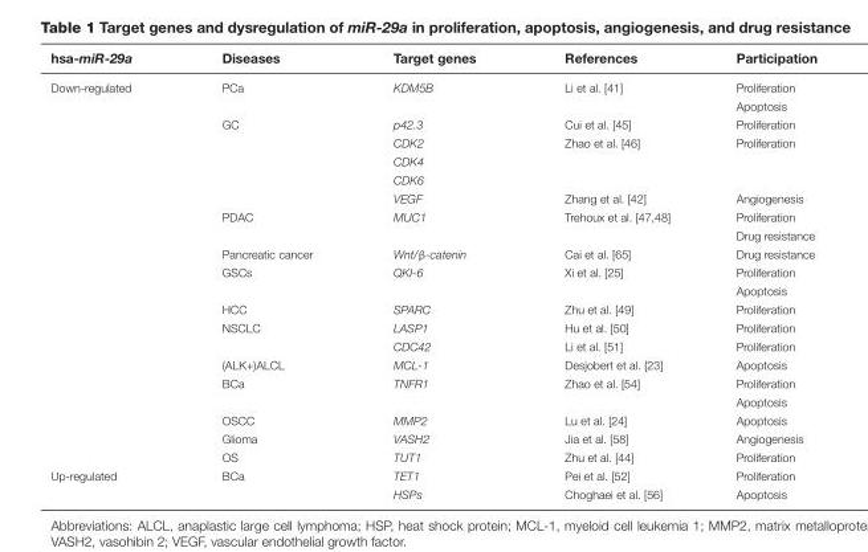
<table><thead><tr><td>hsa-miR-29a</td><td>Diseases</td><td>Target genes</td><td>References</td><td>Participation</td></tr></thead><tbody><tr><td rowspan="21">Down-regulated</td><td>PCa</td><td>KDM5B</td><td>Li et al. [41]</td><td>Proliferation</td></tr><tr><td></td><td></td><td></td><td>Apoptosis</td></tr><tr><td>GC</td><td>p42.3</td><td>Cui et al. [45]</td><td>Proliferation</td></tr><tr><td></td><td>CDK2</td><td>Zhao et al. [46]</td><td>Proliferation</td></tr><tr><td></td><td>CDK4</td><td></td><td></td></tr><tr><td></td><td>CDK6</td><td></td><td></td></tr><tr><td></td><td>VEGF</td><td>Zhang et al. [42]</td><td>Angiogenesis</td></tr><tr><td>PDAC</td><td>MUC1</td><td>Trehoux et al. [47,48]</td><td>Proliferation</td></tr><tr><td></td><td></td><td></td><td>Drug resistance</td></tr><tr><td>Pancreatic cancer</td><td>Wnt/β-catenin</td><td>Cai et al. [65]</td><td>Drug resistance</td></tr><tr><td>GSCs</td><td>QKI-6</td><td>Xi et al. [25]</td><td>Proliferation</td></tr><tr><td></td><td></td><td></td><td>Apoptosis</td></tr><tr><td>HCC</td><td>SPARC</td><td>Zhu et al. [49]</td><td>Proliferation</td></tr><tr><td>NSCLC</td><td>LASP1</td><td>Hu et al. [50]</td><td>Proliferation</td></tr><tr><td></td><td>CDC42</td><td>Li et al. [51]</td><td>Proliferation</td></tr><tr><td>(ALK+)ALCL</td><td>MCL-1</td><td>Desjobert et al. [23]</td><td>Apoptosis</td></tr><tr><td>BCa</td><td>TNFR1</td><td>Zhao et al. [54]</td><td>Proliferation</td></tr><tr><td></td><td></td><td></td><td>Apoptosis</td></tr><tr><td>OSCC</td><td>MMP2</td><td>Lu et al. [24]</td><td>Apoptosis</td></tr><tr><td>Glioma</td><td>VASH2</td><td>Jia et al. [58]</td><td>Angiogenesis</td></tr><tr><td>OS</td><td>TUT1</td><td>Zhu et al. [44]</td><td>Proliferation</td></tr><tr><td rowspan="2">Up-regulated</td><td>BCa</td><td>TET1</td><td>Pei et al. [52]</td><td>Proliferation</td></tr><tr><td></td><td>HSPs</td><td>Choghaei et al. [56]</td><td>Apoptosis</td></tr></tbody></table>